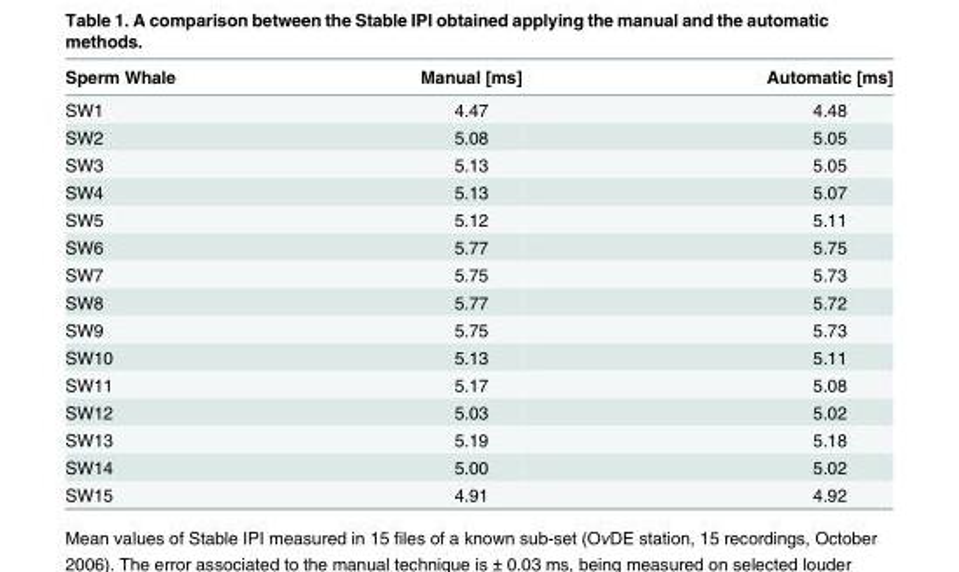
<table><thead><tr><td>Sperm Whale</td><td>Manual [ms]</td><td>Automatic [ms]</td></tr></thead><tbody><tr><td>SW1</td><td>4.47</td><td>4.48</td></tr><tr><td>SW2</td><td>5.08</td><td>5.05</td></tr><tr><td>SW3</td><td>5.13</td><td>5.05</td></tr><tr><td>SW4</td><td>5.13</td><td>5.07</td></tr><tr><td>SW5</td><td>5.12</td><td>5.11</td></tr><tr><td>SW6</td><td>5.77</td><td>5.75</td></tr><tr><td>SW7</td><td>5.75</td><td>5.73</td></tr><tr><td>SW8</td><td>5.77</td><td>5.72</td></tr><tr><td>SW9</td><td>5.75</td><td>5.73</td></tr><tr><td>SW10</td><td>5.13</td><td>5.11</td></tr><tr><td>SW11</td><td>5.17</td><td>5.08</td></tr><tr><td>SW12</td><td>5.03</td><td>5.02</td></tr><tr><td>SW13</td><td>5.19</td><td>5.18</td></tr><tr><td>SW14</td><td>5.00</td><td>5.02</td></tr><tr><td>SW15</td><td>4.91</td><td>4.92</td></tr></tbody></table>